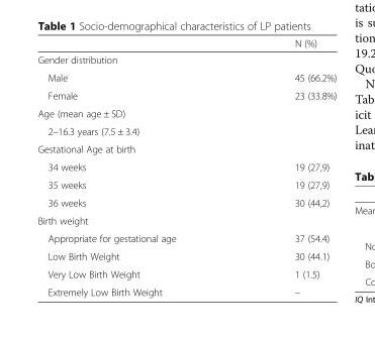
<table><thead><tr><td></td><td>N (%)</td></tr></thead><tbody><tr><td colspan="2">Gender distribution</td></tr><tr><td>Male</td><td>45 (66.2%)</td></tr><tr><td>Female</td><td>23 (33.8%)</td></tr><tr><td colspan="2">Age (mean age ± SD)</td></tr><tr><td colspan="2">2–16.3 years (7.5 ± 3.4)</td></tr><tr><td colspan="2">Gestational Age at birth</td></tr><tr><td>34 weeks</td><td>19 (27,9)</td></tr><tr><td>35 weeks</td><td>19 (27,9)</td></tr><tr><td>36 weeks</td><td>30 (44,2)</td></tr><tr><td colspan="2">Birth weight</td></tr><tr><td>Appropriate for gestational age</td><td>37 (54.4)</td></tr><tr><td>Low Birth Weight</td><td>30 (44.1)</td></tr><tr><td>Very Low Birth Weight</td><td>1 (1.5)</td></tr><tr><td>Extremely Low Birth Weight</td><td>–</td></tr></tbody></table>